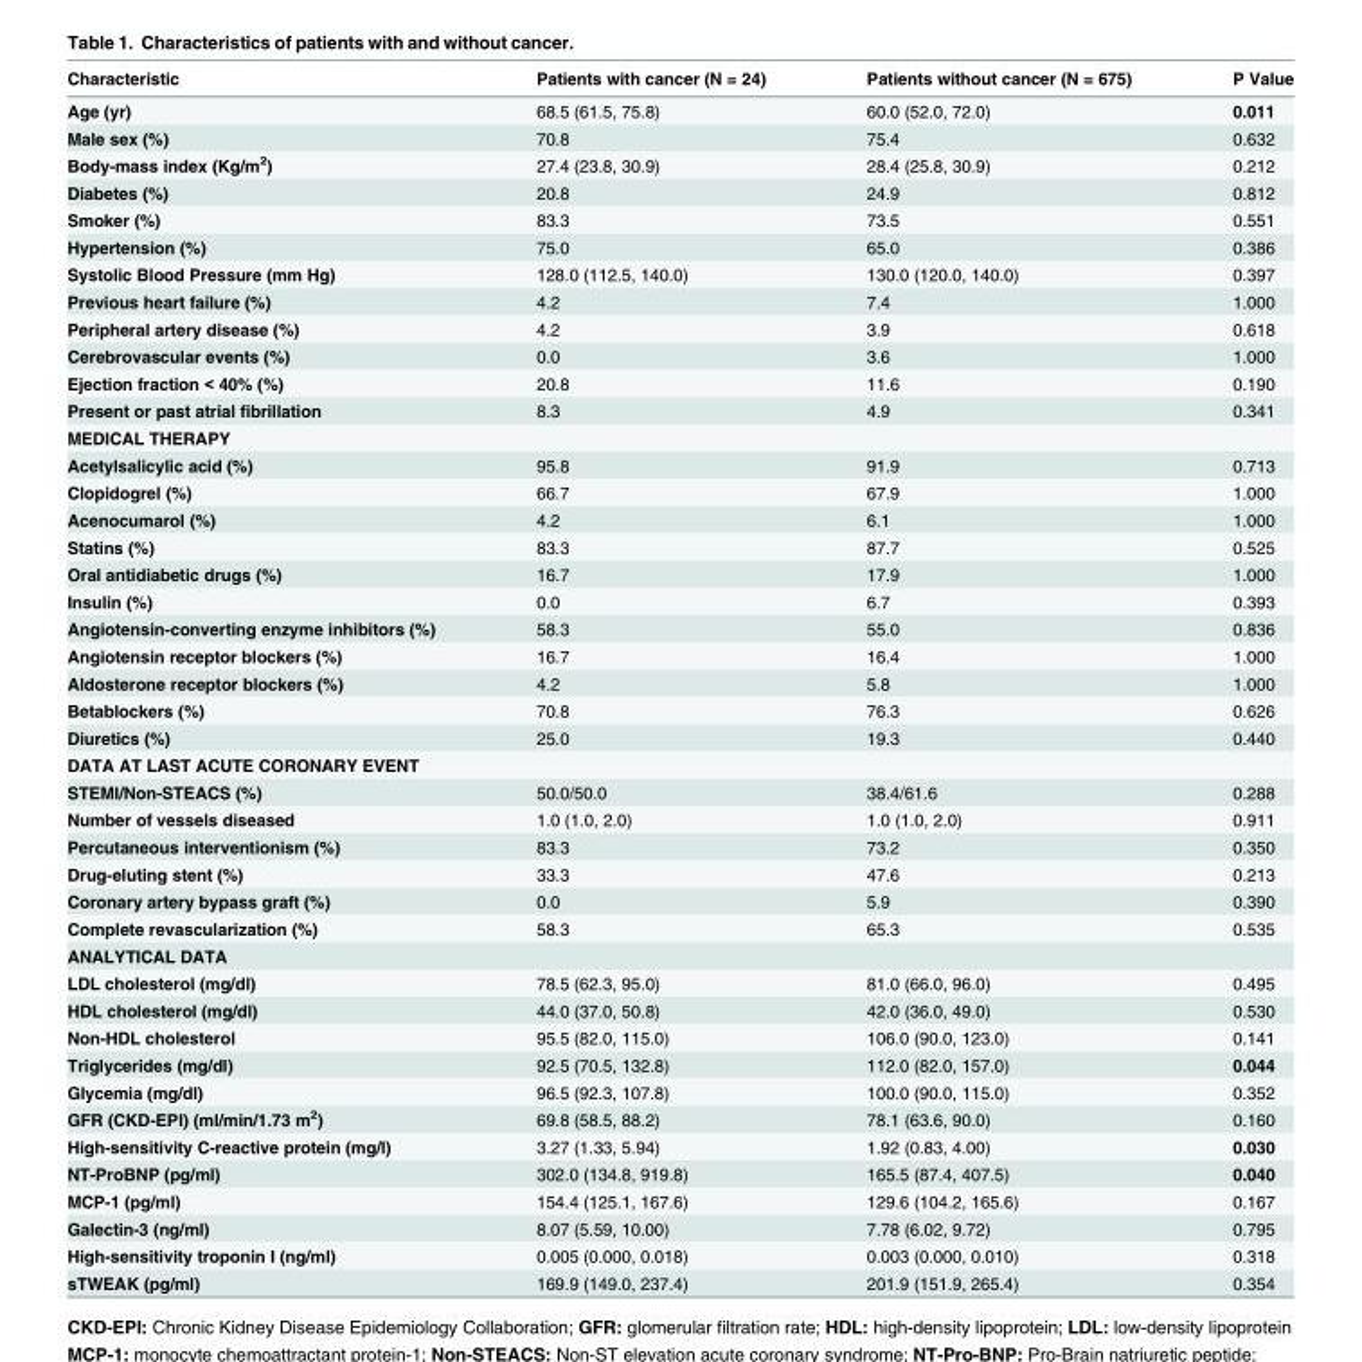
<table><thead><tr><td>Characteristic</td><td>Patients with cancer (N = 24)</td><td>Patients without cancer (N = 675)</td><td>P Value</td></tr></thead><tbody><tr><td>Age (yr)</td><td>68.5 (61.5, 75.8)</td><td>60.0 (52.0, 72.0)</td><td>0.011</td></tr><tr><td>Male sex (%)</td><td>70.8</td><td>75.4</td><td>0.632</td></tr><tr><td>Body-mass index (Kg/m<sup>2</sup>)</td><td>27.4 (23.8, 30.9)</td><td>28.4 (25.8, 30.9)</td><td>0.212</td></tr><tr><td>Diabetes (%)</td><td>20.8</td><td>24.9</td><td>0.812</td></tr><tr><td>Smoker (%)</td><td>83.3</td><td>73.5</td><td>0.551</td></tr><tr><td>Hypertension (%)</td><td>75.0</td><td>65.0</td><td>0.386</td></tr><tr><td>Systolic Blood Pressure (mm Hg)</td><td>128.0 (112.5, 140.0)</td><td>130.0 (120.0, 140.0)</td><td>0.397</td></tr><tr><td>Previous heart failure (%)</td><td>4.2</td><td>7.4</td><td>1.000</td></tr><tr><td>Peripheral artery disease (%)</td><td>4.2</td><td>3.9</td><td>0.618</td></tr><tr><td>Cerebrovascular events (%)</td><td>0.0</td><td>3.6</td><td>1.000</td></tr><tr><td>Ejection fraction &lt; 40% (%)</td><td>20.8</td><td>11.6</td><td>0.190</td></tr><tr><td>Present or past atrial fibrillation</td><td>8.3</td><td>4.9</td><td>0.341</td></tr><tr><td colspan="4">MEDICAL THERAPY</td></tr><tr><td>Acetylsalicylic acid (%)</td><td>95.8</td><td>91.9</td><td>0.713</td></tr><tr><td>Clopidogrel (%)</td><td>66.7</td><td>67.9</td><td>1.000</td></tr><tr><td>Acenocumarol (%)</td><td>4.2</td><td>6.1</td><td>1.000</td></tr><tr><td>Statins (%)</td><td>83.3</td><td>87.7</td><td>0.525</td></tr><tr><td>Oral antidiabetic drugs (%)</td><td>16.7</td><td>17.9</td><td>1.000</td></tr><tr><td>Insulin (%)</td><td>0.0</td><td>6.7</td><td>0.393</td></tr><tr><td>Angiotensin-converting enzyme inhibitors (%)</td><td>58.3</td><td>55.0</td><td>0.836</td></tr><tr><td>Angiotensin receptor blockers (%)</td><td>16.7</td><td>16.4</td><td>1.000</td></tr><tr><td>Aldosterone receptor blockers (%)</td><td>4.2</td><td>5.8</td><td>1.000</td></tr><tr><td>Betablockers (%)</td><td>70.8</td><td>76.3</td><td>0.626</td></tr><tr><td>Diuretics (%)</td><td>25.0</td><td>19.3</td><td>0.440</td></tr><tr><td colspan="4">DATA AT LAST ACUTE CORONARY EVENT</td></tr><tr><td>STEMI/Non-STEACS (%)</td><td>50.0/50.0</td><td>38.4/61.6</td><td>0.288</td></tr><tr><td>Number of vessels diseased</td><td>1.0 (1.0, 2.0)</td><td>1.0 (1.0, 2.0)</td><td>0.911</td></tr><tr><td>Percutaneous interventionism (%)</td><td>83.3</td><td>73.2</td><td>0.350</td></tr><tr><td>Drug-eluting stent (%)</td><td>33.3</td><td>47.6</td><td>0.213</td></tr><tr><td>Coronary artery bypass graft (%)</td><td>0.0</td><td>5.9</td><td>0.390</td></tr><tr><td>Complete revascularization (%)</td><td>58.3</td><td>65.3</td><td>0.535</td></tr><tr><td colspan="4">ANALYTICAL DATA</td></tr><tr><td>LDL cholesterol (mg/dl)</td><td>78.5 (62.3, 95.0)</td><td>81.0 (66.0, 96.0)</td><td>0.495</td></tr><tr><td>HDL cholesterol (mg/dl)</td><td>44.0 (37.0, 50.8)</td><td>42.0 (36.0, 49.0)</td><td>0.530</td></tr><tr><td>Non-HDL cholesterol</td><td>95.5 (82.0, 115.0)</td><td>106.0 (90.0, 123.0)</td><td>0.141</td></tr><tr><td>Triglycerides (mg/dl)</td><td>92.5 (70.5, 132.8)</td><td>112.0 (82.0, 157.0)</td><td>0.044</td></tr><tr><td>Glycemia (mg/dl)</td><td>96.5 (92.3, 107.8)</td><td>100.0 (90.0, 115.0)</td><td>0.352</td></tr><tr><td>GFR (CKD-EPI) (ml/min/1.73 m<sup>2</sup>)</td><td>69.8 (58.5, 88.2)</td><td>78.1 (63.6, 90.0)</td><td>0.160</td></tr><tr><td>High-sensitivity C-reactive protein (mg/l)</td><td>3.27 (1.33, 5.94)</td><td>1.92 (0.83, 4.00)</td><td>0.030</td></tr><tr><td>NT-ProBNP (pg/ml)</td><td>302.0 (134.8, 919.8)</td><td>165.5 (87.4, 407.5)</td><td>0.040</td></tr><tr><td>MCP-1 (pg/ml)</td><td>154.4 (125.1, 167.6)</td><td>129.6 (104.2, 165.6)</td><td>0.167</td></tr><tr><td>Galectin-3 (ng/ml)</td><td>8.07 (5.59, 10.00)</td><td>7.78 (6.02, 9.72)</td><td>0.795</td></tr><tr><td>High-sensitivity troponin I (ng/ml)</td><td>0.005 (0.000, 0.018)</td><td>0.003 (0.000, 0.010)</td><td>0.318</td></tr><tr><td>sTWEAK (pg/ml)</td><td>169.9 (149.0, 237.4)</td><td>201.9 (151.9, 265.4)</td><td>0.354</td></tr></tbody></table>